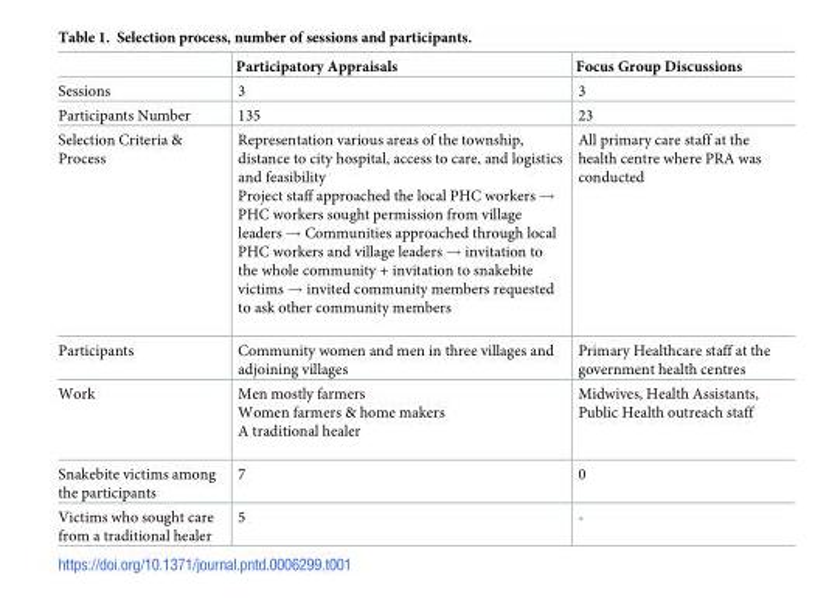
<table><thead><tr><td></td><td>Participatory Appraisals</td><td>Focus Group Discussions</td></tr></thead><tbody><tr><td>Sessions</td><td>3</td><td>3</td></tr><tr><td>Participants Number</td><td>135</td><td>23</td></tr><tr><td>Selection Criteria &amp; Process</td><td>Representation various areas of the township, distance to city hospital, access to care, and logistics and feasibility Project staff approached the local PHC workers → PHC workers sought permission from village leaders → Communities approached through local PHC workers and village leaders → invitation to the whole community + invitation to snakebite victims → invited community members requested to ask other community members</td><td>All primary care staff at the health centre where PRA was conducted</td></tr><tr><td>Participants</td><td>Community women and men in three villages and adjoining villages</td><td>Primary Healthcare staff at the government health centres</td></tr><tr><td>Work</td><td>Men mostly farmers Women farmers &amp; home makers A traditional healer</td><td>Midwives, Health Assistants, Public Health outreach staff</td></tr><tr><td>Snakebite victims among the participants</td><td>7</td><td>0</td></tr><tr><td>Victims who sought care from a traditional healer</td><td>5</td><td>-</td></tr></tbody></table>